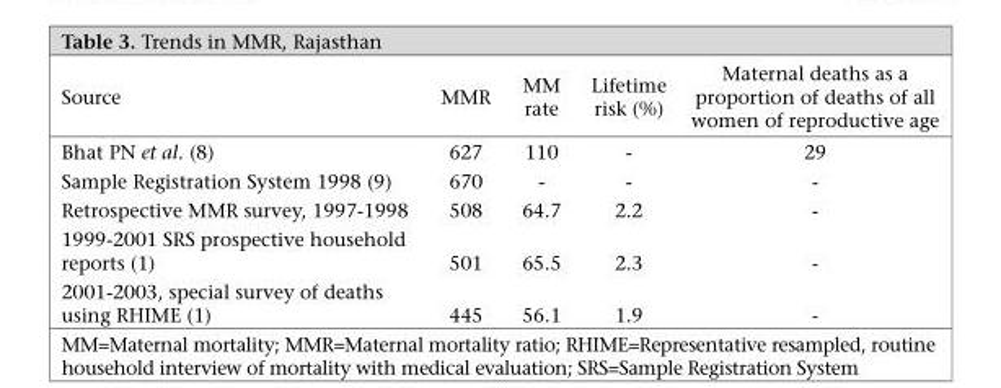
<table><thead><tr><td>Source</td><td>MMR</td><td>MM rate</td><td>Lifetime risk (%)</td><td>Maternal deaths as a proportion of deaths of all women of reproductive age</td></tr></thead><tbody><tr><td>Bhat PN et al. (8)</td><td>627</td><td>110</td><td>-</td><td>29</td></tr><tr><td>Sample Registration System 1998 (9)</td><td>670</td><td>-</td><td>-</td><td>-</td></tr><tr><td>Retrospective MMR survey, 1997-1998</td><td>508</td><td>64.7</td><td>2.2</td><td>-</td></tr><tr><td>1999-2001 SRS prospective household reports (1)</td><td>501</td><td>65.5</td><td>2.3</td><td>-</td></tr><tr><td>2001-2003, special survey of deaths using RHIME (1)</td><td>445</td><td>56.1</td><td>1.9</td><td>-</td></tr></tbody></table>